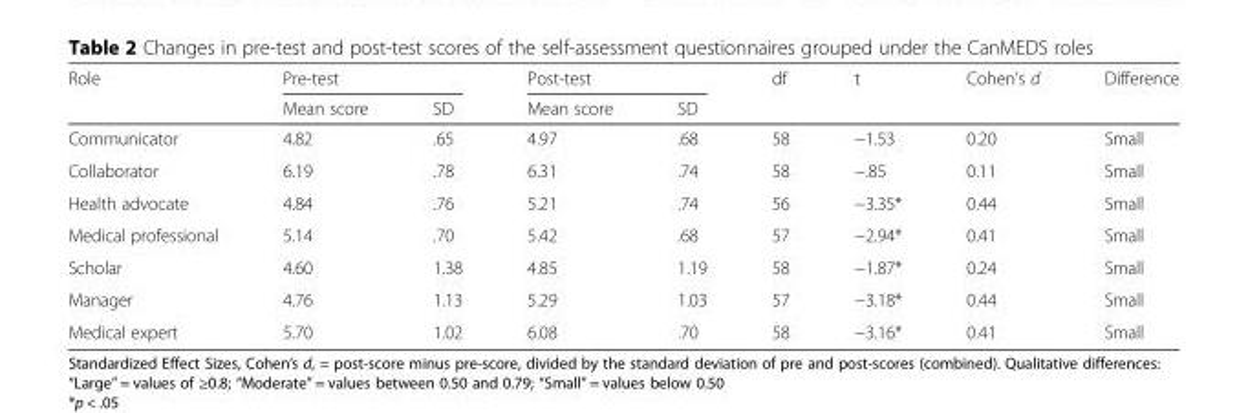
<table><thead><tr><td rowspan="2">Role</td><td colspan="2">Pre-test</td><td colspan="2">Post-test</td><td rowspan="2">df</td><td rowspan="2">t</td><td rowspan="2">Cohen’s d</td><td rowspan="2">Difference</td></tr><tr><td>Mean score</td><td>SD</td><td>Mean score</td><td>SD</td></tr></thead><tbody><tr><td>Communicator</td><td>4.82</td><td>.65</td><td>4.97</td><td>.68</td><td>58</td><td>−1.53</td><td>0.20</td><td>Small</td></tr><tr><td>Collaborator</td><td>6.19</td><td>.78</td><td>6.31</td><td>.74</td><td>58</td><td>−.85</td><td>0.11</td><td>Small</td></tr><tr><td>Health advocate</td><td>4.84</td><td>.76</td><td>5.21</td><td>.74</td><td>56</td><td>−3.35*</td><td>0.44</td><td>Small</td></tr><tr><td>Medical professional</td><td>5.14</td><td>.70</td><td>5.42</td><td>.68</td><td>57</td><td>−2.94*</td><td>0.41</td><td>Small</td></tr><tr><td>Scholar</td><td>4.60</td><td>1.38</td><td>4.85</td><td>1.19</td><td>58</td><td>−1.87*</td><td>0.24</td><td>Small</td></tr><tr><td>Manager</td><td>4.76</td><td>1.13</td><td>5.29</td><td>1.03</td><td>57</td><td>−3.18*</td><td>0.44</td><td>Small</td></tr><tr><td>Medical expert</td><td>5.70</td><td>1.02</td><td>6.08</td><td>.70</td><td>58</td><td>−3.16*</td><td>0.41</td><td>Small</td></tr></tbody></table>